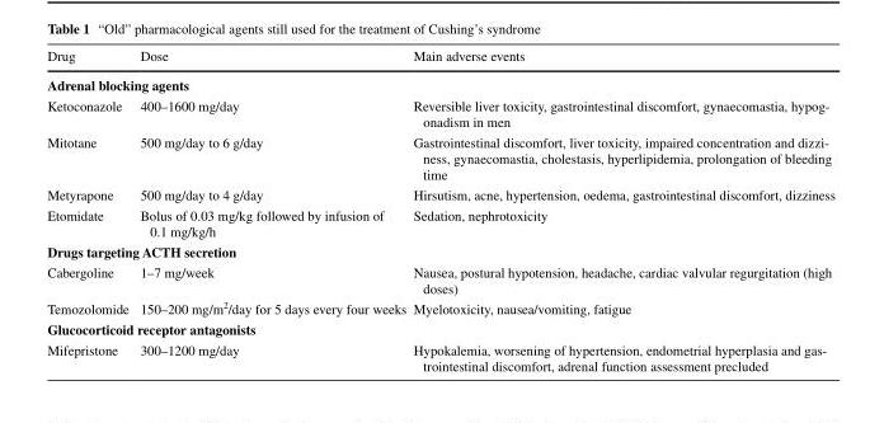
<table><thead><tr><td>Drug</td><td>Dose</td><td>Main adverse events</td></tr></thead><tbody><tr><td colspan="3">Adrenal blocking agents</td></tr><tr><td>Ketoconazole</td><td>400–1600 mg/day</td><td>Reversible liver toxicity, gastrointestinal discomfort, gynaecomastia, hypog- onadism in men</td></tr><tr><td>Mitotane</td><td>500 mg/day to 6 g/day</td><td>Gastrointestinal discomfort, liver toxicity, impaired concentration and dizzi- ness, gynaecomastia, cholestasis, hyperlipidemia, prolongation of bleeding time</td></tr><tr><td>Metyrapone</td><td>500 mg/day to 4 g/day</td><td>Hirsutism, acne, hypertension, oedema, gastrointestinal discomfort, dizziness</td></tr><tr><td>Etomidate</td><td>Bolus of 0.03 mg/kg followed by infusion of 0.1 mg/kg/h</td><td>Sedation, nephrotoxicity</td></tr><tr><td colspan="3">Drugs targeting ACTH secretion</td></tr><tr><td>Cabergoline</td><td>1–7 mg/week</td><td>Nausea, postural hypotension, headache, cardiac valvular regurgitation (high doses)</td></tr><tr><td>Temozolomide</td><td>150–200 mg/m<sup>2</sup>/day for 5 days every four weeks</td><td>Myelotoxicity, nausea/vomiting, fatigue</td></tr><tr><td colspan="3">Glucocorticoid receptor antagonists</td></tr><tr><td>Mifepristone</td><td>300–1200 mg/day</td><td>Hypokalemia, worsening of hypertension, endometrial hyperplasia and gas- trointestinal discomfort, adrenal function assessment precluded</td></tr></tbody></table>